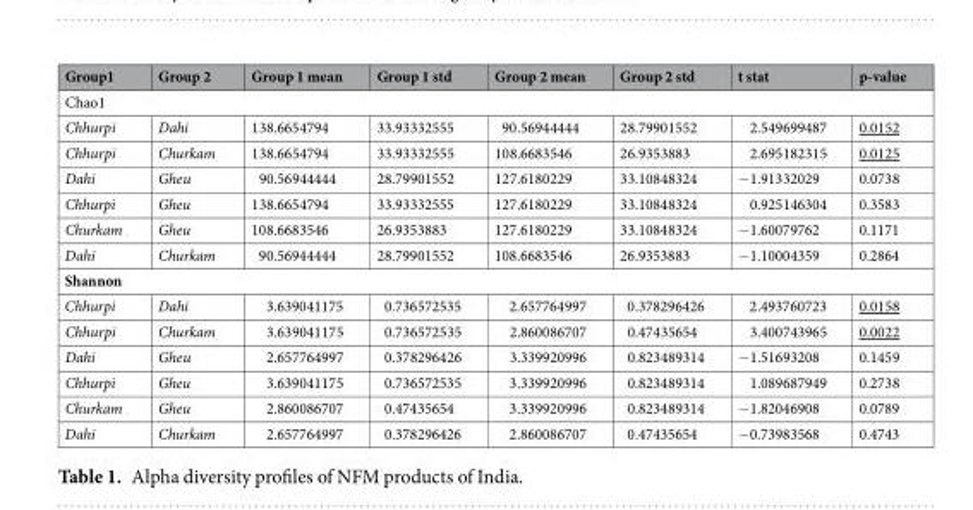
<table><thead><tr><td>Group1</td><td>Group 2</td><td>Group 1 mean</td><td>Group 1 std</td><td>Group 2 mean</td><td>Group 2 std</td><td>t stat</td><td>p-value</td></tr></thead><tbody><tr><td colspan="8">Chao1</td></tr><tr><td>Chhurpi</td><td>Dahi</td><td>138.6654794</td><td>33.93332555</td><td>90.56944444</td><td>28.79901552</td><td>2.549699487</td><td>0.0152</td></tr><tr><td>Chhurpi</td><td>Churkam</td><td>138.6654794</td><td>33.93332555</td><td>108.6683546</td><td>26.9353883</td><td>2.695182315</td><td>0.0125</td></tr><tr><td>Dahi</td><td>Gheu</td><td>90.56944444</td><td>28.79901552</td><td>127.6180229</td><td>33.10848324</td><td>−1.91332029</td><td>0.0738</td></tr><tr><td>Chhurpi</td><td>Gheu</td><td>138.6654794</td><td>33.93332555</td><td>127.6180229</td><td>33.10848324</td><td>0.925146304</td><td>0.3583</td></tr><tr><td>Churkam</td><td>Gheu</td><td>108.6683546</td><td>26.9353883</td><td>127.6180229</td><td>33.10848324</td><td>−1.60079762</td><td>0.1171</td></tr><tr><td>Dahi</td><td>Churkam</td><td>90.56944444</td><td>28.79901552</td><td>108.6683546</td><td>26.9353883</td><td>−1.10004359</td><td>0.2864</td></tr><tr><td colspan="8">Shannon</td></tr><tr><td>Chhurpi</td><td>Dahi</td><td>3.639041175</td><td>0.736572535</td><td>2.657764997</td><td>0.378296426</td><td>2.493760723</td><td>0.0158</td></tr><tr><td>Chhurpi</td><td>Churkam</td><td>3.639041175</td><td>0.736572535</td><td>2.860086707</td><td>0.47435654</td><td>3.400743965</td><td>0.0022</td></tr><tr><td>Dahi</td><td>Gheu</td><td>2.657764997</td><td>0.378296426</td><td>3.339920996</td><td>0.823489314</td><td>−1.51693208</td><td>0.1459</td></tr><tr><td>Chhurpi</td><td>Gheu</td><td>3.639041175</td><td>0.736572535</td><td>3.339920996</td><td>0.823489314</td><td>1.089687949</td><td>0.2738</td></tr><tr><td>Churkam</td><td>Gheu</td><td>2.860086707</td><td>0.47435654</td><td>3.339920996</td><td>0.823489314</td><td>−1.82046908</td><td>0.0789</td></tr><tr><td>Dahi</td><td>Churkam</td><td>2.657764997</td><td>0.378296426</td><td>2.860086707</td><td>0.47435654</td><td>−0.73983568</td><td>0.4743</td></tr></tbody></table>